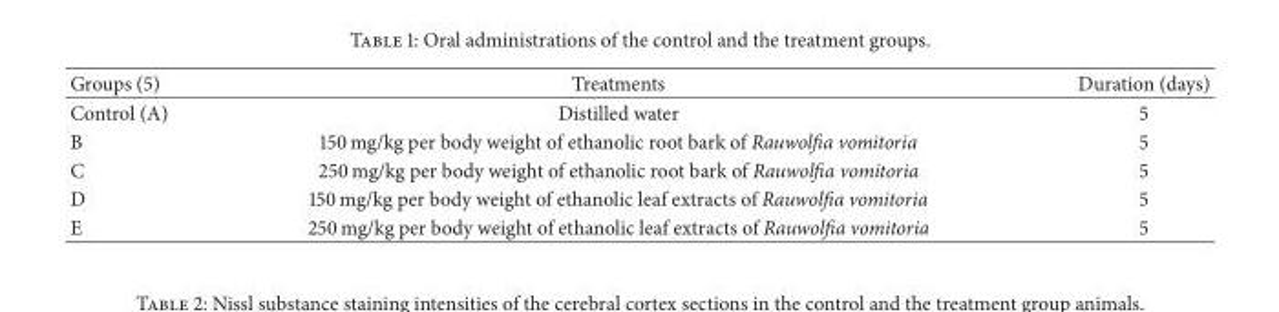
<table><thead><tr><td>Groups (5)</td><td>Treatments</td><td>Duration (days)</td></tr></thead><tbody><tr><td>Control (A)</td><td>Distilled water</td><td>5</td></tr><tr><td>B</td><td>150 mg/kg per body weight of ethanolic root bark of Rauwolfia vomitoria</td><td>5</td></tr><tr><td>C</td><td>250 mg/kg per body weight of ethanolic root bark of Rauwolfia vomitoria</td><td>5</td></tr><tr><td>D</td><td>150 mg/kg per body weight of ethanolic leaf extracts of Rauwolfia vomitoria</td><td>5</td></tr><tr><td>E</td><td>250 mg/kg per body weight of ethanolic leaf extracts of Rauwolfia vomitoria</td><td>5</td></tr></tbody></table>